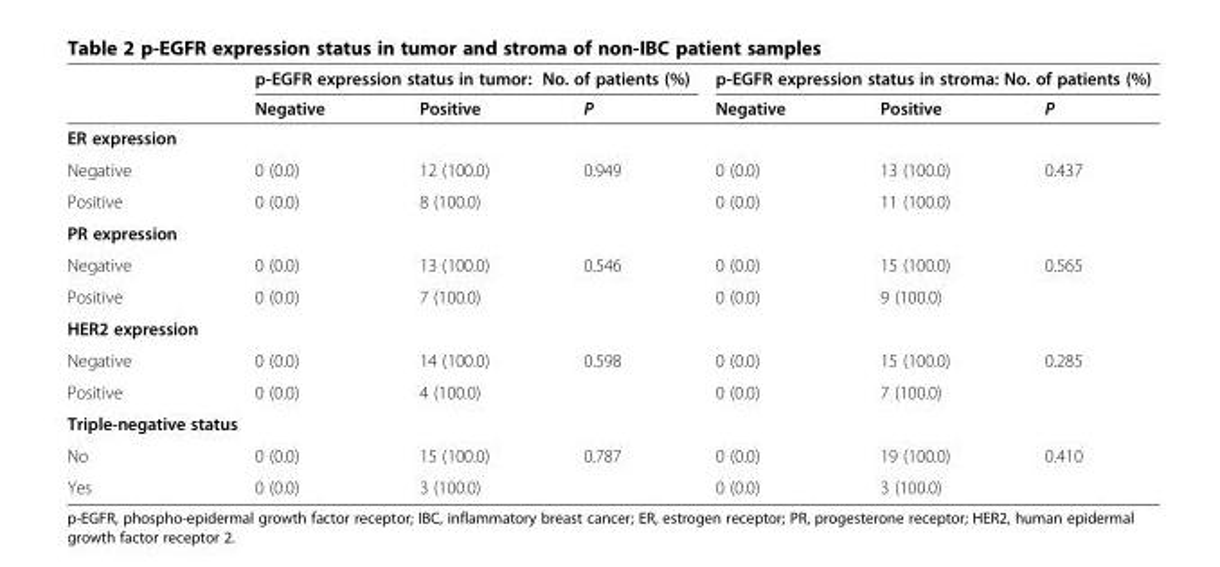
<table><thead><tr><td rowspan="2"></td><td colspan="3">p-EGFR expression status in tumor: No. of patients (%)</td><td colspan="3">p-EGFR expression status in stroma: No. of patients (%)</td></tr><tr><td>Negative</td><td>Positive</td><td>P</td><td>Negative</td><td>Positive</td><td>P</td></tr></thead><tbody><tr><td colspan="7">ER expression</td></tr><tr><td>Negative</td><td>0 (0.0)</td><td>12 (100.0)</td><td>0.949</td><td>0 (0.0)</td><td>13 (100.0)</td><td>0.437</td></tr><tr><td>Positive</td><td>0 (0.0)</td><td>8 (100.0)</td><td></td><td>0 (0.0)</td><td>11 (100.0)</td><td></td></tr><tr><td colspan="7">PR expression</td></tr><tr><td>Negative</td><td>0 (0.0)</td><td>13 (100.0)</td><td>0.546</td><td>0 (0.0)</td><td>15 (100.0)</td><td>0.565</td></tr><tr><td>Positive</td><td>0 (0.0)</td><td>7 (100.0)</td><td></td><td>0 (0.0)</td><td>9 (100.0)</td><td></td></tr><tr><td colspan="7">HER2 expression</td></tr><tr><td>Negative</td><td>0 (0.0)</td><td>14 (100.0)</td><td>0.598</td><td>0 (0.0)</td><td>15 (100.0)</td><td>0.285</td></tr><tr><td>Positive</td><td>0 (0.0)</td><td>4 (100.0)</td><td></td><td>0 (0.0)</td><td>7 (100.0)</td><td></td></tr><tr><td colspan="7">Triple-negative status</td></tr><tr><td>No</td><td>0 (0.0)</td><td>15 (100.0)</td><td>0.787</td><td>0 (0.0)</td><td>19 (100.0)</td><td>0.410</td></tr><tr><td>Yes</td><td>0 (0.0)</td><td>3 (100.0)</td><td></td><td>0 (0.0)</td><td>3 (100.0)</td><td></td></tr></tbody></table>